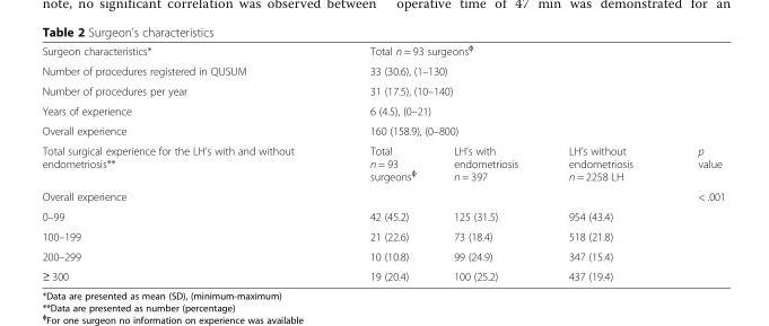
<table><tbody><tr><td>Surgeon characteristics*</td><td colspan="4">Total n = 93 surgeons<sup>ɸ</sup></td></tr><tr><td>Number of procedures registered in QUSUM</td><td colspan="4">33 (30.6), (1–130)</td></tr><tr><td>Number of procedures per year</td><td colspan="4">31 (17.5), (10–140)</td></tr><tr><td>Years of experience</td><td colspan="4">6 (4.5), (0–21)</td></tr><tr><td>Overall experience</td><td colspan="4">160 (158.9), (0–800)</td></tr><tr><td>Total surgical experience for the LH’s with and without endometriosis**</td><td>Total n = 93 surgeons<sup>ɸ</sup></td><td>LH’s with endometriosis n = 397</td><td>LH’s without endometriosis n = 2258 LH</td><td>p value</td></tr><tr><td>Overall experience</td><td></td><td></td><td></td><td>&lt; .001</td></tr><tr><td>0–99</td><td>42 (45.2)</td><td>125 (31.5)</td><td>954 (43.4)</td><td></td></tr><tr><td>100–199</td><td>21 (22.6)</td><td>73 (18.4)</td><td>518 (21.8)</td><td></td></tr><tr><td>200–299</td><td>10 (10.8)</td><td>99 (24.9)</td><td>347 (15.4)</td><td></td></tr><tr><td>≥ 300</td><td>19 (20.4)</td><td>100 (25.2)</td><td>437 (19.4)</td><td></td></tr></tbody></table>